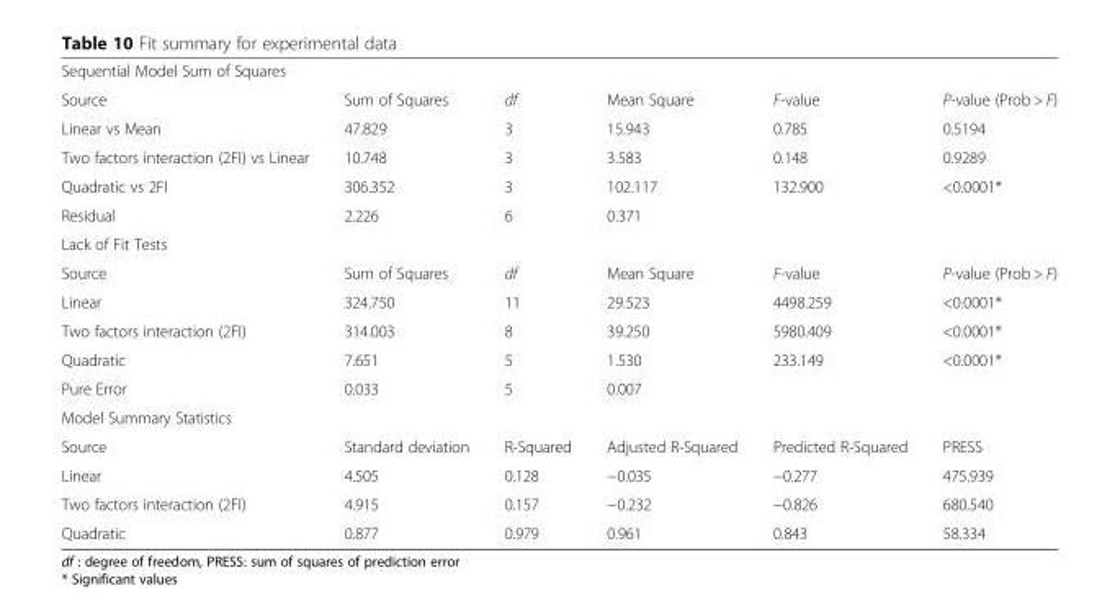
<table><tbody><tr><td colspan="6">Sequential Model Sum of Squares</td></tr><tr><td>Source</td><td>Sum of Squares</td><td>df</td><td>Mean Square</td><td>F-value</td><td>P-value (Prob &gt; F)</td></tr><tr><td>Linear vs Mean</td><td>47.829</td><td>3</td><td>15.943</td><td>0.785</td><td>0.5194</td></tr><tr><td>Two factors interaction (2FI) vs Linear</td><td>10.748</td><td>3</td><td>3.583</td><td>0.148</td><td>0.9289</td></tr><tr><td>Quadratic vs 2FI</td><td>306.352</td><td>3</td><td>102.117</td><td>132.900</td><td>&lt;0.0001*</td></tr><tr><td>Residual</td><td>2.226</td><td>6</td><td>0.371</td><td></td><td></td></tr><tr><td colspan="6">Lack of Fit Tests</td></tr><tr><td>Source</td><td>Sum of Squares</td><td>df</td><td>Mean Square</td><td>F-value</td><td>P-value (Prob &gt; F)</td></tr><tr><td>Linear</td><td>324.750</td><td>11</td><td>29.523</td><td>4498.259</td><td>&lt;0.0001*</td></tr><tr><td>Two factors interaction (2FI)</td><td>314.003</td><td>8</td><td>39.250</td><td>5980.409</td><td>&lt;0.0001*</td></tr><tr><td>Quadratic</td><td>7.651</td><td>5</td><td>1.530</td><td>233.149</td><td>&lt;0.0001*</td></tr><tr><td>Pure Error</td><td>0.033</td><td>5</td><td>0.007</td><td></td><td></td></tr><tr><td colspan="6">Model Summary Statistics</td></tr><tr><td>Source</td><td>Standard deviation</td><td>R-Squared</td><td>Adjusted R-Squared</td><td>Predicted R-Squared</td><td>PRESS</td></tr><tr><td>Linear</td><td>4.505</td><td>0.128</td><td>−0.035</td><td>−0.277</td><td>475.939</td></tr><tr><td>Two factors interaction (2FI)</td><td>4.915</td><td>0.157</td><td>−0.232</td><td>−0.826</td><td>680.540</td></tr><tr><td>Quadratic</td><td>0.877</td><td>0.979</td><td>0.961</td><td>0.843</td><td>58.334</td></tr></tbody></table>